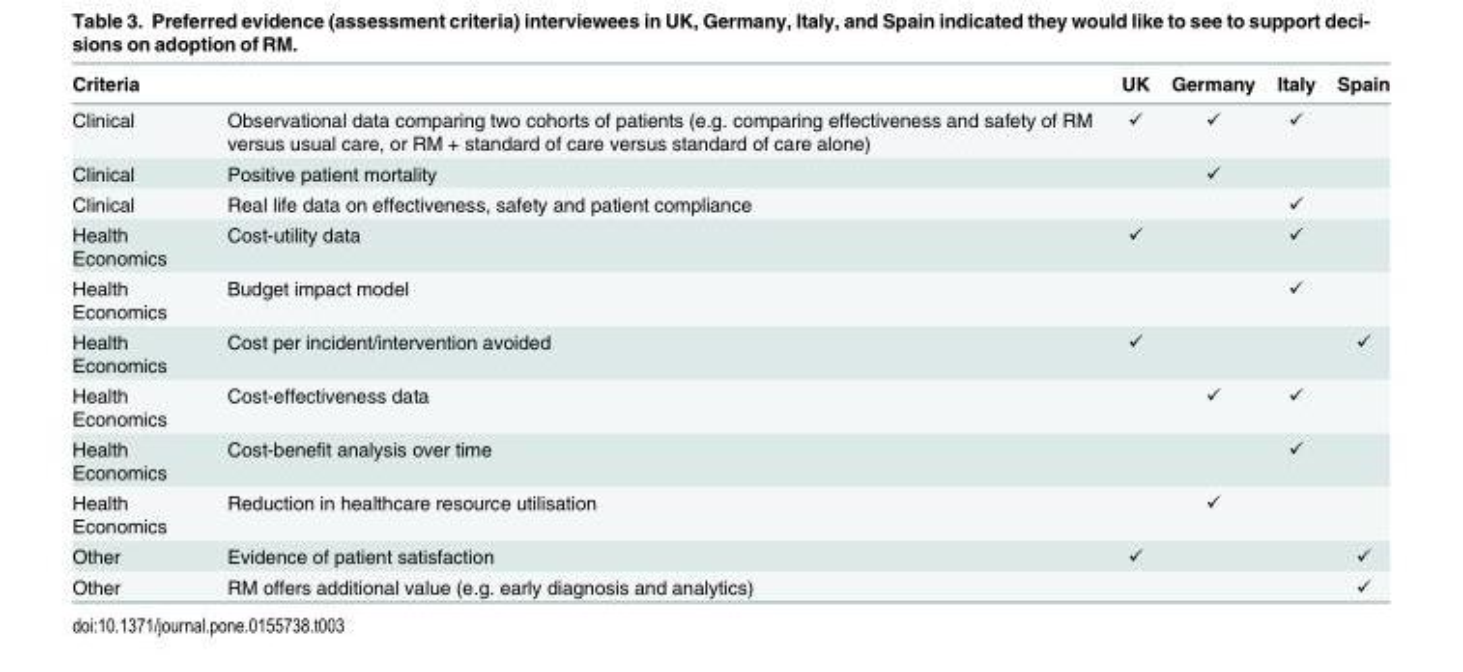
<table><thead><tr><td colspan="2">Criteria</td><td rowspan="2">UK ✓</td><td rowspan="2">Germany ✓</td><td rowspan="2">Italy ✓</td><td rowspan="2">Spain</td></tr><tr><td>Clinical</td><td>Observational data comparing two cohorts of patients (e.g. comparing effectiveness and safety of RM versus usual care, or RM + standard of care versus standard of care alone)</td></tr></thead><tbody><tr><td>Clinical</td><td>Positive patient mortality</td><td></td><td>✓</td><td></td><td></td></tr><tr><td>Clinical</td><td>Real life data on effectiveness, safety and patient compliance</td><td></td><td></td><td>✓</td><td></td></tr><tr><td>Health Economics</td><td>Cost-utility data</td><td>✓</td><td></td><td>✓</td><td></td></tr><tr><td>Health Economics</td><td>Budget impact model</td><td></td><td></td><td>✓</td><td></td></tr><tr><td>Health Economics</td><td>Cost per incident/intervention avoided</td><td>✓</td><td></td><td></td><td>✓</td></tr><tr><td>Health Economics</td><td>Cost-effectiveness data</td><td></td><td>✓</td><td>✓</td><td></td></tr><tr><td>Health Economics</td><td>Cost-benefit analysis over time</td><td></td><td></td><td>✓</td><td></td></tr><tr><td>Health Economics</td><td>Reduction in healthcare resource utilisation</td><td></td><td>✓</td><td></td><td></td></tr><tr><td>Other</td><td>Evidence of patient satisfaction</td><td>✓</td><td></td><td></td><td>✓</td></tr><tr><td>Other</td><td>RM offers additional value (e.g. early diagnosis and analytics)</td><td></td><td></td><td></td><td>✓</td></tr></tbody></table>